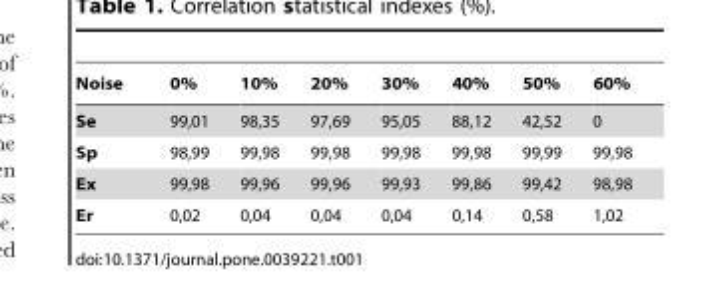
<table><thead><tr><td>Noise</td><td>0%</td><td>10%</td><td>20%</td><td>30%</td><td>40%</td><td>50%</td><td>60%</td></tr></thead><tbody><tr><td>Se</td><td>99,01</td><td>98,35</td><td>97,69</td><td>95,05</td><td>88,12</td><td>42,52</td><td>0</td></tr><tr><td>Sp</td><td>98,99</td><td>99,98</td><td>99,98</td><td>99,98</td><td>99,98</td><td>99,99</td><td>99,98</td></tr><tr><td>Ex</td><td>99,98</td><td>99,96</td><td>99,96</td><td>99,93</td><td>99,86</td><td>99,42</td><td>98,98</td></tr><tr><td>Er</td><td>0,02</td><td>0,04</td><td>0,04</td><td>0,04</td><td>0,14</td><td>0,58</td><td>1,02</td></tr></tbody></table>